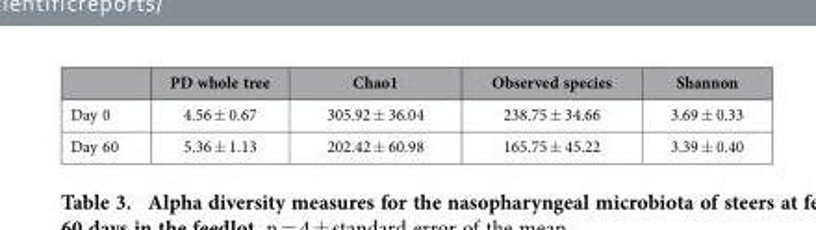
<table><thead><tr><td></td><td>PD whole tree</td><td>Chao1</td><td>Observed species</td><td>Shannon</td></tr></thead><tbody><tr><td>Day 0</td><td>4.56 ± 0.67</td><td>305.92 ± 36.04</td><td>238.75 ± 34.66</td><td>3.69 ± 0.33</td></tr><tr><td>Day 60</td><td>5.36 ± 1.13</td><td>202.42 ± 60.98</td><td>165.75 ± 45.22</td><td>3.39 ± 0.40</td></tr></tbody></table>